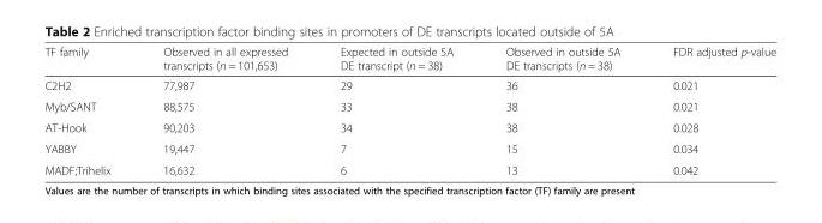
<table><thead><tr><td>TF family</td><td>Observed in all expressed transcripts (n = 101,653)</td><td>Expected in outside 5A DE transcript (n = 38)</td><td>Observed in outside 5A DE transcripts (n = 38)</td><td>FDR adjusted p-value</td></tr></thead><tbody><tr><td>C2H2</td><td>77,987</td><td>29</td><td>36</td><td>0.021</td></tr><tr><td>Myb/SANT</td><td>88,575</td><td>33</td><td>38</td><td>0.021</td></tr><tr><td>AT-Hook</td><td>90,203</td><td>34</td><td>38</td><td>0.028</td></tr><tr><td>YABBY</td><td>19,447</td><td>7</td><td>15</td><td>0.034</td></tr><tr><td>MADF;Trihelix</td><td>16,632</td><td>6</td><td>13</td><td>0.042</td></tr></tbody></table>